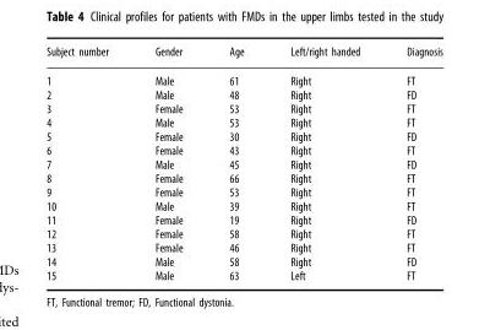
<table><thead><tr><td>Subject number</td><td>Gender</td><td>Age</td><td>Left/right handed</td><td>Diagnosis</td></tr></thead><tbody><tr><td>1</td><td>Male</td><td>61</td><td>Right</td><td>FT</td></tr><tr><td>2</td><td>Male</td><td>48</td><td>Right</td><td>FD</td></tr><tr><td>3</td><td>Female</td><td>53</td><td>Right</td><td>FT</td></tr><tr><td>4</td><td>Male</td><td>53</td><td>Right</td><td>FT</td></tr><tr><td>5</td><td>Female</td><td>30</td><td>Right</td><td>FD</td></tr><tr><td>6</td><td>Female</td><td>43</td><td>Right</td><td>FT</td></tr><tr><td>7</td><td>Male</td><td>45</td><td>Right</td><td>FD</td></tr><tr><td>8</td><td>Female</td><td>66</td><td>Right</td><td>FT</td></tr><tr><td>9</td><td>Female</td><td>53</td><td>Right</td><td>FT</td></tr><tr><td>10</td><td>Male</td><td>39</td><td>Right</td><td>FT</td></tr><tr><td>11</td><td>Female</td><td>19</td><td>Right</td><td>FD</td></tr><tr><td>12</td><td>Female</td><td>58</td><td>Right</td><td>FT</td></tr><tr><td>13</td><td>Female</td><td>46</td><td>Right</td><td>FT</td></tr><tr><td>14</td><td>Male</td><td>58</td><td>Right</td><td>FD</td></tr><tr><td>15</td><td>Male</td><td>63</td><td>Left</td><td>FT</td></tr></tbody></table>